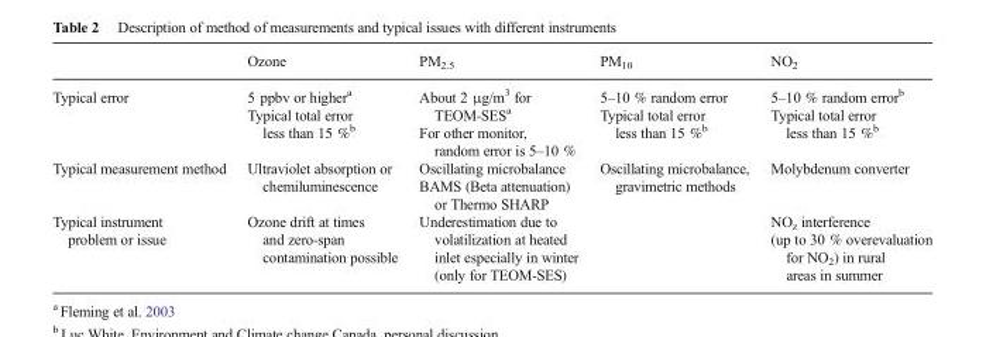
<table><thead><tr><td></td><td>Ozone</td><td>PM<sub>2.5</sub></td><td>PM<sub>10</sub></td><td>NO<sub>2</sub></td></tr></thead><tbody><tr><td>Typical error</td><td>5 ppbv or higher<sup>a</sup> Typical total error less than 15 %<sup>b</sup></td><td>About 2 μg/m<sup>3</sup> for TEOM-SES<sup>a</sup> For other monitor, random error is 5–10 %</td><td>5–10 % random error Typical total error less than 15 %<sup>b</sup></td><td>5–10 % random error<sup>b</sup> Typical total error less than 15 %<sup>b</sup></td></tr><tr><td>Typical measurement method</td><td>Ultraviolet absorption or chemiluminescence</td><td>Oscillating microbalance BAMS (Beta attenuation) or Thermo SHARP</td><td>Oscillating microbalance, gravimetric methods</td><td>Molybdenum converter</td></tr><tr><td>Typical instrument problem or issue</td><td>Ozone drift at times and zero-span contamination possible</td><td>Underestimation due to volatilization at heated inlet especially in winter (only for TEOM-SES)</td><td></td><td>NO<sub>z</sub> interference (up to 30 % overevaluation for NO<sub>2</sub>) in rural areas in summer</td></tr></tbody></table>